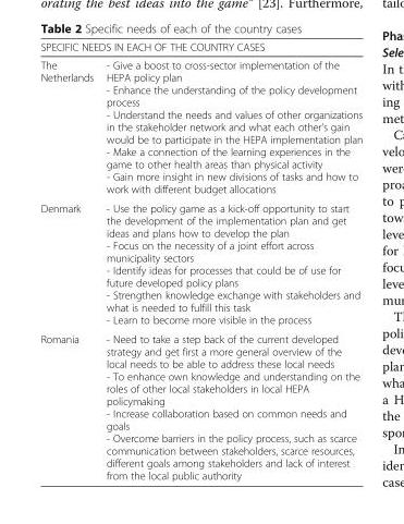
<table><thead><tr><td colspan="2">SPECIFIC NEEDS IN EACH OF THE COUNTRY CASES</td></tr><tr><td>The Netherlands</td><td>- Give a boost to cross-sector implementation of the HEPA policy plan - Enhance the understanding of the policy development process - Understand the needs and values of other organizations in the stakeholder network and what each other’s gain would be to participate in the HEPA implementation plan - Make a connection of the learning experiences in the game to other health areas than physical activity - Gain more insight in new divisions of tasks and how to work with different budget allocations</td></tr></thead><tbody><tr><td>Denmark</td><td>- Use the policy game as a kick-off opportunity to start the development of the implementation plan and get ideas and plans how to develop the plan - Focus on the necessity of a joint effort across municipality sectors - Identify ideas for processes that could be of use for future developed policy plans - Strengthen knowledge exchange with stakeholders and what is needed to fulfill this task - Learn to become more visible in the process</td></tr><tr><td>Romania</td><td>- Need to take a step back of the current developed strategy and get first a more general overview of the local needs to be able to address these local needs - To enhance own knowledge and understanding on the roles of other local stakeholders in local HEPA policymaking - Increase collaboration based on common needs and goals - Overcome barriers in the policy process, such as scarce communication between stakeholders, scarce resources, different goals among stakeholders and lack of interest from the local public authority</td></tr></tbody></table>